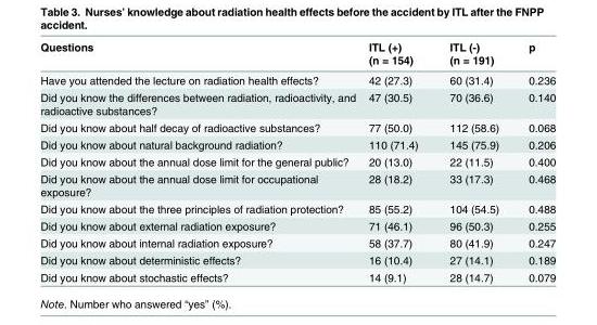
<table><thead><tr><td>Questions</td><td>ITL (+) (n = 154)</td><td>ITL (-) (n = 191)</td><td>p</td></tr></thead><tbody><tr><td>Have you attended the lecture on radiation health effects?</td><td>42 (27.3)</td><td>60 (31.4)</td><td>0.236</td></tr><tr><td>Did you know the differences between radiation, radioactivity, and radioactive substances?</td><td>47 (30.5)</td><td>70 (36.6)</td><td>0.140</td></tr><tr><td>Did you know about half decay of radioactive substances?</td><td>77 (50.0)</td><td>112 (58.6)</td><td>0.068</td></tr><tr><td>Did you know about natural background radiation?</td><td>110 (71.4)</td><td>145 (75.9)</td><td>0.206</td></tr><tr><td>Did you know about the annual dose limit for the general public?</td><td>20 (13.0)</td><td>22 (11.5)</td><td>0.400</td></tr><tr><td>Did you know about the annual dose limit for occupational exposure?</td><td>28 (18.2)</td><td>33 (17.3)</td><td>0.468</td></tr><tr><td>Did you know about the three principles of radiation protection?</td><td>85 (55.2)</td><td>104 (54.5)</td><td>0.488</td></tr><tr><td>Did you know about external radiation exposure?</td><td>71 (46.1)</td><td>96 (50.3)</td><td>0.255</td></tr><tr><td>Did you know about internal radiation exposure?</td><td>58 (37.7)</td><td>80 (41.9)</td><td>0.247</td></tr><tr><td>Did you know about deterministic effects?</td><td>16 (10.4)</td><td>27 (14.1)</td><td>0.189</td></tr><tr><td>Did you know about stochastic effects?</td><td>14 (9.1)</td><td>28 (14.7)</td><td>0.079</td></tr></tbody></table>